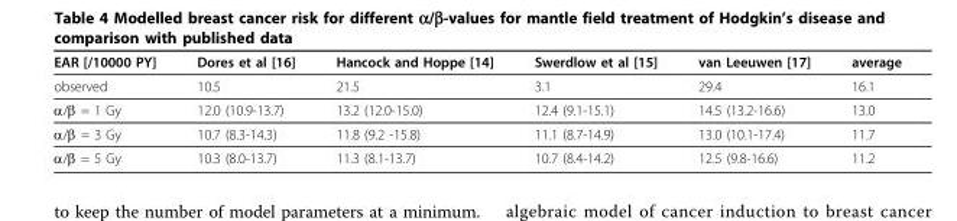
<table><thead><tr><td>EAR [/10000 PY]</td><td>Dores et al [16]</td><td>Hancock and Hoppe [14]</td><td>Swerdlow et al [15]</td><td>van Leeuwen [17]</td><td>average</td></tr></thead><tbody><tr><td>observed</td><td>10.5</td><td>21.5</td><td>3.1</td><td>29.4</td><td>16.1</td></tr><tr><td>α/β = 1 Gy</td><td>12.0 (10.9-13.7)</td><td>13.2 (12.0-15.0)</td><td>12.4 (9.1-15.1)</td><td>14.5 (13.2-16.6)</td><td>13.0</td></tr><tr><td>α/β = 3 Gy</td><td>10.7 (8.3-14.3)</td><td>11.8 (9.2 -15.8)</td><td>11.1 (8.7-14.9)</td><td>13.0 (10.1-17.4)</td><td>11.7</td></tr><tr><td>α/β = 5 Gy</td><td>10.3 (8.0-13.7)</td><td>11.3 (8.1-13.7)</td><td>10.7 (8.4-14.2)</td><td>12.5 (9.8-16.6)</td><td>11.2</td></tr></tbody></table>